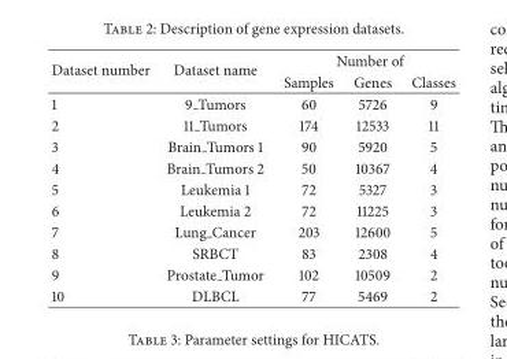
<table><thead><tr><td rowspan="2">Dataset number</td><td rowspan="2">Dataset name</td><td colspan="3">Number of</td></tr><tr><td>Samples</td><td>Genes</td><td>Classes</td></tr></thead><tbody><tr><td>1</td><td>9 Tumors</td><td>60</td><td>5726</td><td>9</td></tr><tr><td>2</td><td>11 Tumors</td><td>174</td><td>12533</td><td>11</td></tr><tr><td>3</td><td>Brain Tumors 1</td><td>90</td><td>5920</td><td>5</td></tr><tr><td>4</td><td>Brain Tumors 2</td><td>50</td><td>10367</td><td>4</td></tr><tr><td>5</td><td>Leukemia 1</td><td>72</td><td>5327</td><td>3</td></tr><tr><td>6</td><td>Leukemia 2</td><td>72</td><td>11225</td><td>3</td></tr><tr><td>7</td><td>Lung Cancer</td><td>203</td><td>12600</td><td>5</td></tr><tr><td>8</td><td>SRBCT</td><td>83</td><td>2308</td><td>4</td></tr><tr><td>9</td><td>Prostate Tumor</td><td>102</td><td>10509</td><td>2</td></tr><tr><td>10</td><td>DLBCL</td><td>77</td><td>5469</td><td>2</td></tr></tbody></table>